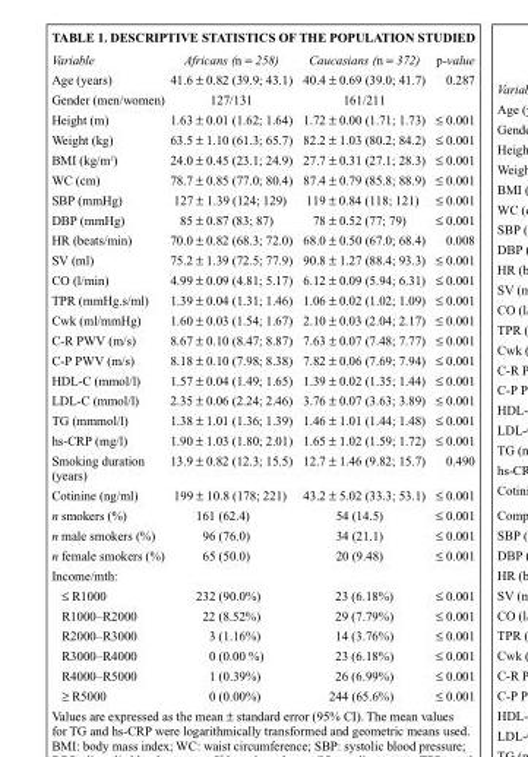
<table><thead><tr><td>Variable</td><td>Africans (n = 258)</td><td>Caucasians (n = 372)</td><td>p-value</td></tr></thead><tbody><tr><td>Age (years)</td><td>41.6 ± 0.82 (39.9; 43.1)</td><td>40.4 ± 0.69 (39.0; 41.7)</td><td>0.287</td></tr><tr><td>Gender (men/women)</td><td>127/131</td><td>161/211</td><td></td></tr><tr><td>Height (m)</td><td>1.63 ± 0.01 (1.62; 1.64)</td><td>1.72 ± 0.00 (1.71; 1.73)</td><td>≤ 0.001</td></tr><tr><td>Weight (kg)</td><td>63.5 ± 1.10 (61.3; 65.7)</td><td>82.2 ± 1.03 (80.2; 84.2)</td><td>≤ 0.001</td></tr><tr><td>BMI (kg/m<sup>2</sup>)</td><td>24.0 ± 0.45 (23.1; 24.9)</td><td>27.7 ± 0.31 (27.1; 28.3)</td><td>≤ 0.001</td></tr><tr><td>WC (cm)</td><td>78.7 ± 0.85 (77.0; 80.4)</td><td>87.4 ± 0.79 (85.8; 88.9)</td><td>≤ 0.001</td></tr><tr><td>SBP (mmHg)</td><td>127 ± 1.39 (124; 129)</td><td>119 ± 0.84 (118; 121)</td><td>≤ 0.001</td></tr><tr><td>DBP (mmHg)</td><td>85 ± 0.87 (83; 87)</td><td>78 ± 0.52 (77; 79)</td><td>≤ 0.001</td></tr><tr><td>HR (beats/min)</td><td>70.0 ± 0.82 (68.3; 72.0)</td><td>68.0 ± 0.50 (67.0; 68.4)</td><td>0.008</td></tr><tr><td>SV (ml)</td><td>75.2 ± 1.39 (72.5; 77.9)</td><td>90.8 ± 1.27 (88.4; 93.3)</td><td>≤ 0.001</td></tr><tr><td>CO (l/min)</td><td>4.99 ± 0.09 (4.81; 5.17)</td><td>6.12 ± 0.09 (5.94; 6.31)</td><td>≤ 0.001</td></tr><tr><td>TPR (mmHg.s/ml)</td><td>1.39 ± 0.04 (1.31; 1.46)</td><td>1.06 ± 0.02 (1.02; 1.09)</td><td>≤ 0.001</td></tr><tr><td>Cwk (ml/mmHg)</td><td>1.60 ± 0.03 (1.54; 1.67)</td><td>2.10 ± 0.03 (2.04; 2.17)</td><td>≤ 0.001</td></tr><tr><td>C-R PWV (m/s)</td><td>8.67 ± 0.10 (8.47; 8.87)</td><td>7.63 ± 0.07 (7.48; 7.77)</td><td>≤ 0.001</td></tr><tr><td>C-P PWV (m/s)</td><td>8.18 ± 0.10 (7.98; 8.38)</td><td>7.82 ± 0.06 (7.69; 7.94)</td><td>≤ 0.001</td></tr><tr><td>HDL-C (mmol/l)</td><td>1.57 ± 0.04 (1.49; 1.65)</td><td>1.39 ± 0.02 (1.35; 1.44)</td><td>≤ 0.001</td></tr><tr><td>LDL-C (mmol/l)</td><td>2.35 ± 0.06 (2.24; 2.46)</td><td>3.76 ± 0.07 (3.63; 3.89)</td><td>≤ 0.001</td></tr><tr><td>TG (mmmol/l)</td><td>1.38 ± 1.01 (1.36; 1.39)</td><td>1.46 ± 1.01 (1.44; 1.48)</td><td>≤ 0.001</td></tr><tr><td>hs-CRP (mg/l)</td><td>1.90 ± 1.03 (1.80; 2.01)</td><td>1.65 ± 1.02 (1.59; 1.72)</td><td>≤ 0.001</td></tr><tr><td>Smoking duration (years)</td><td>13.9 ± 0.82 (12.3; 15.5)</td><td>12.7 ± 1.46 (9.82; 15.7)</td><td>0.490</td></tr><tr><td>Cotinine (ng/ml)</td><td>199 ± 10.8 (178; 221)</td><td>43.2 ± 5.02 (33.3; 53.1)</td><td>≤ 0.001</td></tr><tr><td>n smokers (%)</td><td>161 (62.4)</td><td>54 (14.5)</td><td>≤ 0.001</td></tr><tr><td>n male smokers (%)</td><td>96 (76.0)</td><td>34 (21.1)</td><td>≤ 0.001</td></tr><tr><td>n female smokers (%)</td><td>65 (50.0)</td><td>20 (9.48)</td><td>≤ 0.001</td></tr><tr><td colspan="4">Income/mth:</td></tr><tr><td>≤ R1000</td><td>232 (90.0%)</td><td>23 (6.18%)</td><td>≤ 0.001</td></tr><tr><td>R1000–R2000</td><td>22 (8.52%)</td><td>29 (7.79%)</td><td>≤ 0.001</td></tr><tr><td>R2000–R3000</td><td>3 (1.16%)</td><td>14 (3.76%)</td><td>≤ 0.001</td></tr><tr><td>R3000–R4000</td><td>0 (0.00 %)</td><td>23 (6.18%)</td><td>≤ 0.001</td></tr><tr><td>R4000–R5000</td><td>1 (0.39%)</td><td>26 (6.99%)</td><td>≤ 0.001</td></tr><tr><td>≥ R5000</td><td>0 (0.00%)</td><td>244 (65.6%)</td><td>≤ 0.001</td></tr></tbody></table>